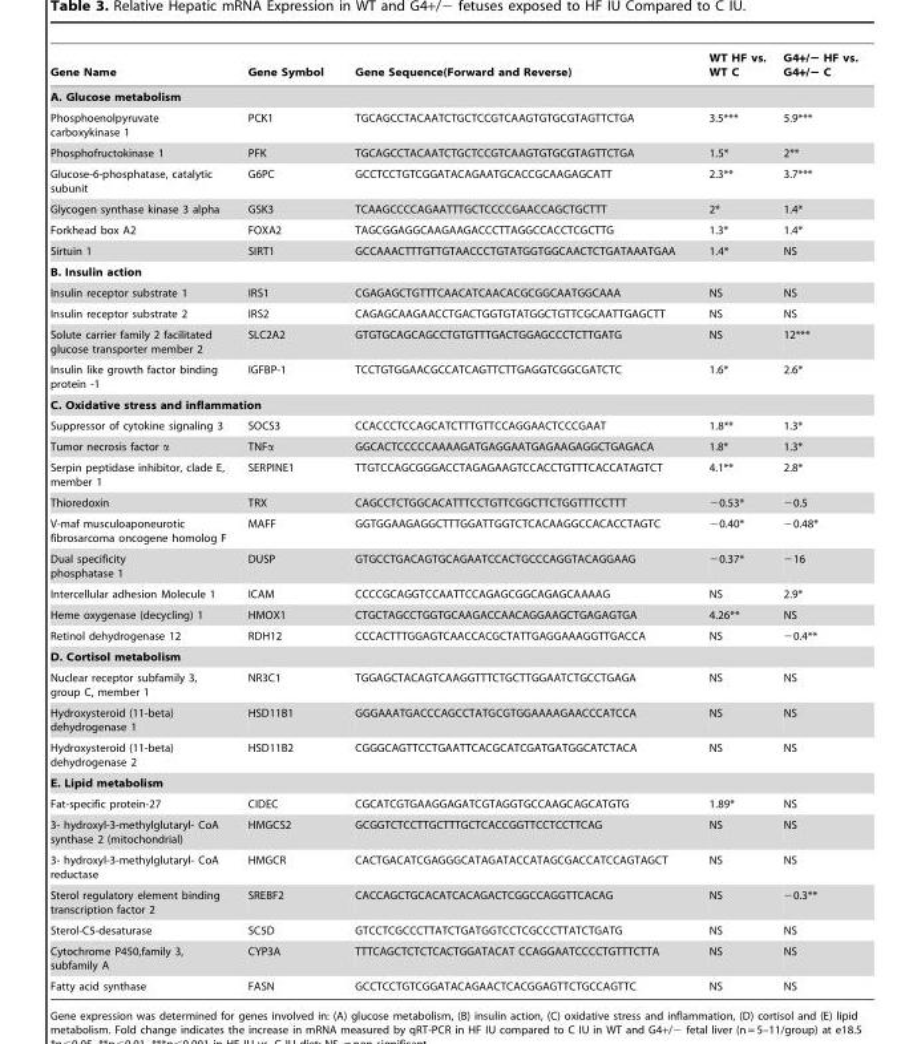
<table><thead><tr><td>Gene Name</td><td>Gene Symbol</td><td>Gene Sequence(Forward and Reverse)</td><td>WT HF vs. WT C</td><td>G4+/− HF vs. G4+/− C</td></tr></thead><tbody><tr><td colspan="5">A. Glucose metabolism</td></tr><tr><td>Phosphoenolpyruvate carboxykinase 1</td><td>PCK1</td><td>TGCAGCCTACAATCTGCTCCGTCAAGTGTGCGTAGTTCTGA</td><td>3.5***</td><td>5.9***</td></tr><tr><td>Phosphofructokinase 1</td><td>PFK</td><td>TGCAGCCTACAATCTGCTCCGTCAAGTGTGCGTAGTTCTGA</td><td>1.5*</td><td>2**</td></tr><tr><td>Glucose-6-phosphatase, catalytic subunit</td><td>G6PC</td><td>GCCTCCTGTCGGATACAGAATGCACCGCAAGAGCATT</td><td>2.3**</td><td>3.7***</td></tr><tr><td>Glycogen synthase kinase 3 alpha</td><td>GSK3</td><td>TCAAGCCCCAGAATTTGCTCCCCGAACCAGCTGCTTT</td><td>2*</td><td>1.4*</td></tr><tr><td>Forkhead box A2</td><td>FOXA2</td><td>TAGCGGAGGCAAGAAGACCCTTAGGCCACCTCGCTTG</td><td>1.3*</td><td>1.4*</td></tr><tr><td>Sirtuin 1</td><td>SIRT1</td><td>GCCAAACTTTGTTGTAACCCTGTATGGTGGCAACTCTGATAAATGAA</td><td>1.4*</td><td>NS</td></tr><tr><td colspan="5">B. Insulin action</td></tr><tr><td>Insulin receptor substrate 1</td><td>IRS1</td><td>CGAGAGCTGTTTCAACATCAACACGCGGCAATGGCAAA</td><td>NS</td><td>NS</td></tr><tr><td>Insulin receptor substrate 2</td><td>IRS2</td><td>CAGAGCAAGAACCTGACTGGTGTATGGCTGTTCGCAATTGAGCTT</td><td>NS</td><td>NS</td></tr><tr><td>Solute carrier family 2 facilitated glucose transporter member 2</td><td>SLC2A2</td><td>GTGTGCAGCAGCCTGTGTTTGACTGGAGCCCTCTTGATG</td><td>NS</td><td>12***</td></tr><tr><td>Insulin like growth factor binding protein -1</td><td>IGFBP-1</td><td>TCCTGTGGAACGCCATCAGTTCTTGAGGTCGGCGATCTC</td><td>1.6*</td><td>2.6*</td></tr><tr><td colspan="5">C. Oxidative stress and inflammation</td></tr><tr><td>Suppressor of cytokine signaling 3</td><td>SOCS3</td><td>CCACCCTCCAGCATCTTTGTTCCAGGAACTCCCGAAT</td><td>1.8**</td><td>1.3*</td></tr><tr><td>Tumor necrosis factor α</td><td>TNFα</td><td>GGCACTCCCCCAAAAGATGAGGAATGAGAAGAGGCTGAGACA</td><td>1.8*</td><td>1.3*</td></tr><tr><td>Serpin peptidase inhibitor, clade E, member 1</td><td>SERPINE1</td><td>TTGTCCAGCGGGACCTAGAGAAGTCCACCTGTTTCACCATAGTCT</td><td>4.1**</td><td>2.8*</td></tr><tr><td>Thioredoxin</td><td>TRX</td><td>CAGCCTCTGGCACATTTCCTGTTCGGCTTCTGGTTTCCTTT</td><td>−0.53*</td><td>−0.5</td></tr><tr><td>V-maf musculoaponeurotic fibrosarcoma oncogene homolog F</td><td>MAFF</td><td>GGTGGAAGAGGCTTTGGATTGGTCTCACAAGGCCACACCTAGTC</td><td>−0.40*</td><td>−0.48*</td></tr><tr><td>Dual specificity phosphatase 1</td><td>DUSP</td><td>GTGCCTGACAGTGCAGAATCCACTGCCCAGGTACAGGAAG</td><td>−0.37*</td><td>−16</td></tr><tr><td>Intercellular adhesion Molecule 1</td><td>ICAM</td><td>CCCCGCAGGTCCAATTCCAGAGCGGCAGAGCAAAAG</td><td>NS</td><td>2.9*</td></tr><tr><td>Heme oxygenase (decycling) 1</td><td>HMOX1</td><td>CTGCTAGCCTGGTGCAAGACCAACAGGAAGCTGAGAGTGA</td><td>4.26**</td><td>NS</td></tr><tr><td>Retinol dehydrogenase 12</td><td>RDH12</td><td>CCCACTTTGGAGTCAACCACGCTATTGAGGAAAGGTTGACCA</td><td>NS</td><td>−0.4**</td></tr><tr><td colspan="5">D. Cortisol metabolism</td></tr><tr><td>Nuclear receptor subfamily 3, group C, member 1</td><td>NR3C1</td><td>TGGAGCTACAGTCAAGGTTTCTGCTTGGAATCTGCCTGAGA</td><td>NS</td><td>NS</td></tr><tr><td>Hydroxysteroid (11-beta) dehydrogenase 1</td><td>HSD11B1</td><td>GGGAAATGACCCAGCCTATGCGTGGAAAAGAACCCATCCA</td><td>NS</td><td>NS</td></tr><tr><td>Hydroxysteroid (11-beta) dehydrogenase 2</td><td>HSD11B2</td><td>CGGGCAGTTCCTGAATTCACGCATCGATGATGGCATCTACA</td><td>NS</td><td>NS</td></tr><tr><td colspan="5">E. Lipid metabolism</td></tr><tr><td>Fat-specific protein-27</td><td>CIDEC</td><td>CGCATCGTGAAGGAGATCGTAGGTGCCAAGCAGCATGTG</td><td>1.89*</td><td>NS</td></tr><tr><td>3- hydroxyl-3-methylglutaryl- CoA synthase 2 (mitochondrial)</td><td>HMGCS2</td><td>GCGGTCTCCTTGCTTTGCTCACCGGTTCCTCCTTCAG</td><td>NS</td><td>NS</td></tr><tr><td>3- hydroxyl-3-methylglutaryl- CoA reductase</td><td>HMGCR</td><td>CACTGACATCGAGGGCATAGATACCATAGCGACCATCCAGTAGCT</td><td>NS</td><td>NS</td></tr><tr><td>Sterol regulatory element binding transcription factor 2</td><td>SREBF2</td><td>CACCAGCTGCACATCACAGACTCGGCCAGGTTCACAG</td><td>NS</td><td>−0.3**</td></tr><tr><td>Sterol-C5-desaturase</td><td>SC5D</td><td>GTCCTCGCCCTTATCTGATGGTCCTCGCCCTTATCTGATG</td><td>NS</td><td>NS</td></tr><tr><td>Cytochrome P450,family 3, subfamily A</td><td>CYP3A</td><td>TTTCAGCTCTCTCACTGGATACAT CCAGGAATCCCCTGTTTCTTA</td><td>NS</td><td>NS</td></tr><tr><td>Fatty acid synthase</td><td>FASN</td><td>GCCTCCTGTCGGATACAGAACTCACGGAGTTCTGCCAGTTC</td><td>NS</td><td>NS</td></tr></tbody></table>